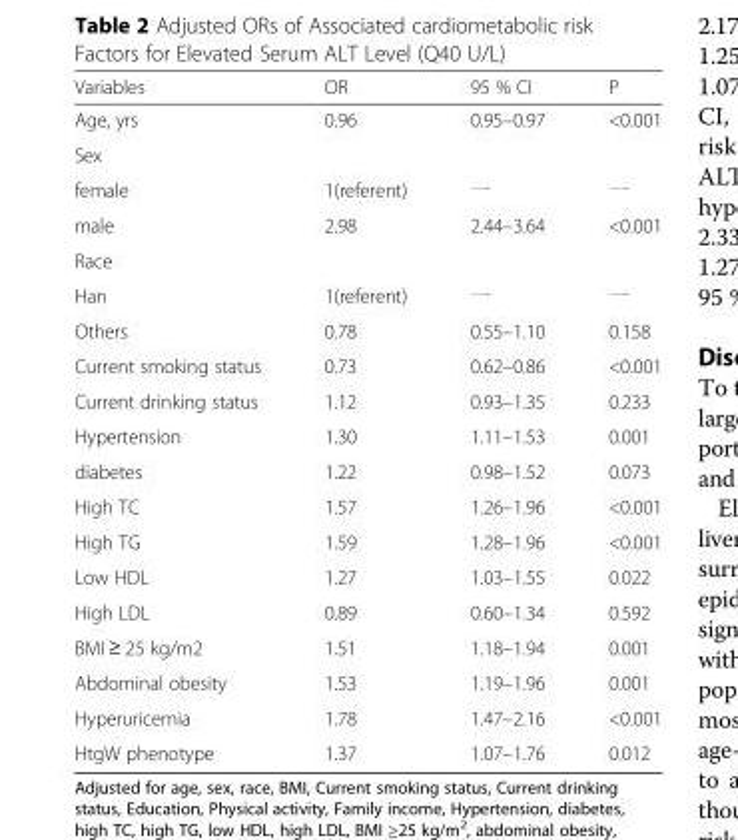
<table><thead><tr><td>Variables</td><td>OR</td><td>95 % CI</td><td>P</td></tr></thead><tbody><tr><td>Age, yrs</td><td>0.96</td><td>0.95–0.97</td><td>&lt;0.001</td></tr><tr><td colspan="4">Sex</td></tr><tr><td>female</td><td>1(referent)</td><td>一</td><td>一</td></tr><tr><td>male</td><td>2.98</td><td>2.44–3.64</td><td>&lt;0.001</td></tr><tr><td colspan="4">Race</td></tr><tr><td>Han</td><td>1(referent)</td><td>一</td><td>一</td></tr><tr><td>Others</td><td>0.78</td><td>0.55–1.10</td><td>0.158</td></tr><tr><td>Current smoking status</td><td>0.73</td><td>0.62–0.86</td><td>&lt;0.001</td></tr><tr><td>Current drinking status</td><td>1.12</td><td>0.93–1.35</td><td>0.233</td></tr><tr><td>Hypertension</td><td>1.30</td><td>1.11–1.53</td><td>0.001</td></tr><tr><td>diabetes</td><td>1.22</td><td>0.98–1.52</td><td>0.073</td></tr><tr><td>High TC</td><td>1.57</td><td>1.26–1.96</td><td>&lt;0.001</td></tr><tr><td>High TG</td><td>1.59</td><td>1.28–1.96</td><td>&lt;0.001</td></tr><tr><td>Low HDL</td><td>1.27</td><td>1.03–1.55</td><td>0.022</td></tr><tr><td>High LDL</td><td>0.89</td><td>0.60–1.34</td><td>0.592</td></tr><tr><td>BMI ≥ 25 kg/m2</td><td>1.51</td><td>1.18–1.94</td><td>0.001</td></tr><tr><td>Abdominal obesity</td><td>1.53</td><td>1.19–1.96</td><td>0.001</td></tr><tr><td>Hyperuricemia</td><td>1.78</td><td>1.47–2.16</td><td>&lt;0.001</td></tr><tr><td>HtgW phenotype</td><td>1.37</td><td>1.07–1.76</td><td>0.012</td></tr></tbody></table>